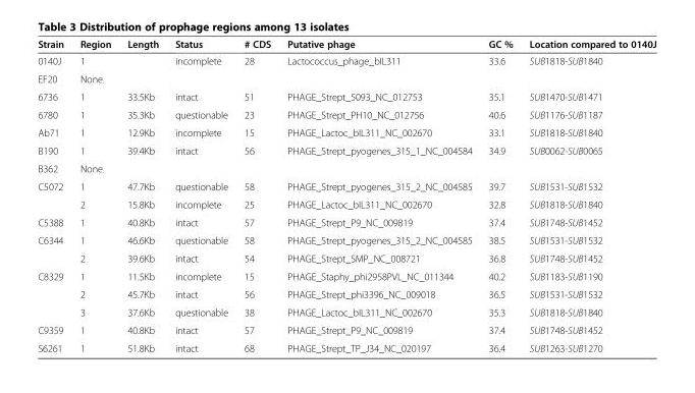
<table><thead><tr><td>Strain</td><td>Region</td><td>Length</td><td>Status</td><td># CDS</td><td>Putative phage</td><td>GC %</td><td>Location compared to 0140J</td></tr></thead><tbody><tr><td>0140J</td><td>1</td><td></td><td>incomplete</td><td>28</td><td>Lactococcus_phage_bIL311</td><td>33.6</td><td>SUB1818-SUB1840</td></tr><tr><td>EF20</td><td>None</td><td></td><td></td><td></td><td></td><td></td><td></td></tr><tr><td>6736</td><td>1</td><td>33.5Kb</td><td>intact</td><td>51</td><td>PHAGE_Strept_5093_NC_012753</td><td>35.1</td><td>SUB1470-SUB1471</td></tr><tr><td>6780</td><td>1</td><td>35.3Kb</td><td>questionable</td><td>23</td><td>PHAGE_Strept_PH10_NC_012756</td><td>40.6</td><td>SUB1176-SUB1187</td></tr><tr><td>Ab71</td><td>1</td><td>12.9Kb</td><td>incomplete</td><td>15</td><td>PHAGE_Lactoc_bIL311_NC_002670</td><td>33.1</td><td>SUB1818-SUB1840</td></tr><tr><td>B190</td><td>1</td><td>39.4Kb</td><td>intact</td><td>56</td><td>PHAGE_Strept_pyogenes_315_1_NC_004584</td><td>34.9</td><td>SUB0062-SUB0065</td></tr><tr><td>B362</td><td>None</td><td></td><td></td><td></td><td></td><td></td><td></td></tr><tr><td rowspan="2">C5072</td><td>1</td><td>47.7Kb</td><td>questionable</td><td>58</td><td>PHAGE_Strept_pyogenes_315_2_NC_004585</td><td>39.7</td><td>SUB1531-SUB1532</td></tr><tr><td>2</td><td>15.8Kb</td><td>incomplete</td><td>25</td><td>PHAGE_Lactoc_bIL311_NC_002670</td><td>32.8</td><td>SUB1818-SUB1840</td></tr><tr><td>C5388</td><td>1</td><td>40.8Kb</td><td>intact</td><td>57</td><td>PHAGE_Strept_P9_NC_009819</td><td>37.4</td><td>SUB1748-SUB1452</td></tr><tr><td rowspan="2">C6344</td><td>1</td><td>46.6Kb</td><td>questionable</td><td>58</td><td>PHAGE_Strept_pyogenes_315_2_NC_004585</td><td>38.5</td><td>SUB1531-SUB1532</td></tr><tr><td>2</td><td>39.6Kb</td><td>intact</td><td>54</td><td>PHAGE_Strept_SMP_NC_008721</td><td>36.8</td><td>SUB1748-SUB1452</td></tr><tr><td rowspan="3">C8329</td><td>1</td><td>11.5Kb</td><td>incomplete</td><td>15</td><td>PHAGE_Staphy_phi2958PVL_NC_011344</td><td>40.2</td><td>SUB1183-SUB1190</td></tr><tr><td>2</td><td>45.7Kb</td><td>intact</td><td>56</td><td>PHAGE_Strept_phi3396_NC_009018</td><td>36.5</td><td>SUB1531-SUB1532</td></tr><tr><td>3</td><td>37.6Kb</td><td>questionable</td><td>38</td><td>PHAGE_Lactoc_bIL311_NC_002670</td><td>35.3</td><td>SUB1818-SUB1840</td></tr><tr><td>C9359</td><td>1</td><td>40.8Kb</td><td>intact</td><td>57</td><td>PHAGE_Strept_P9_NC_009819</td><td>37.4</td><td>SUB1748-SUB1452</td></tr><tr><td>S6261</td><td>1</td><td>51.8Kb</td><td>intact</td><td>68</td><td>PHAGE_Strept_TP_J34_NC_020197</td><td>36.4</td><td>SUB1263-SUB1270</td></tr></tbody></table>